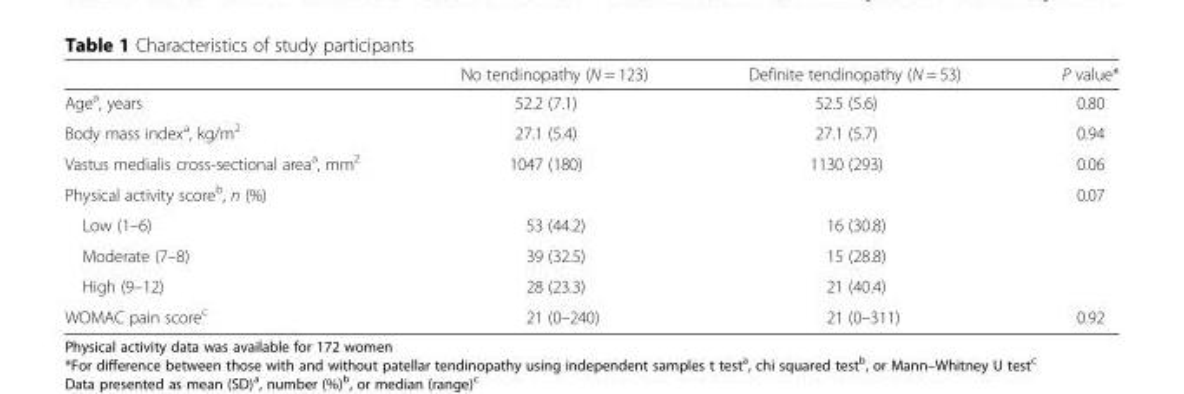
<table><thead><tr><td></td><td>No tendinopathy (N = 123)</td><td>Definite tendinopathy (N = 53)</td><td>P value*</td></tr></thead><tbody><tr><td>Age<sup>a</sup>, years</td><td>52.2 (7.1)</td><td>52.5 (5.6)</td><td>0.80</td></tr><tr><td>Body mass index<sup>a</sup>, kg/m<sup>2</sup></td><td>27.1 (5.4)</td><td>27.1 (5.7)</td><td>0.94</td></tr><tr><td>Vastus medialis cross-sectional area<sup>a</sup>, mm<sup>2</sup></td><td>1047 (180)</td><td>1130 (293)</td><td>0.06</td></tr><tr><td>Physical activity score<sup>b</sup>, n (%)</td><td></td><td></td><td>0.07</td></tr><tr><td>Low (1–6)</td><td>53 (44.2)</td><td>16 (30.8)</td><td></td></tr><tr><td>Moderate (7–8)</td><td>39 (32.5)</td><td>15 (28.8)</td><td></td></tr><tr><td>High (9–12)</td><td>28 (23.3)</td><td>21 (40.4)</td><td></td></tr><tr><td>WOMAC pain score<sup>c</sup></td><td>21 (0–240)</td><td>21 (0–311)</td><td>0.92</td></tr></tbody></table>